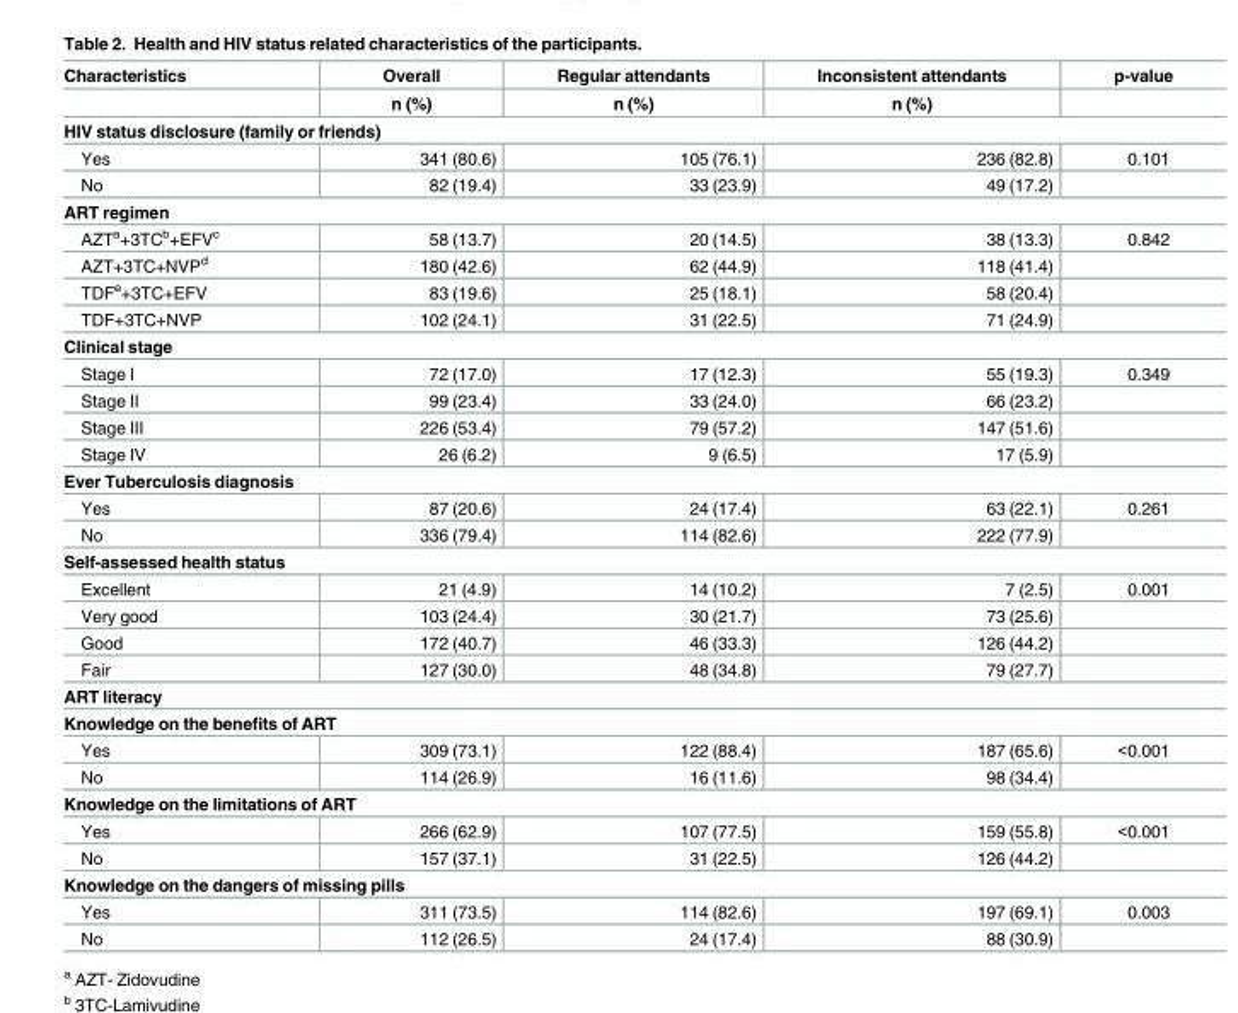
<table><thead><tr><td rowspan="2">Characteristics</td><td rowspan="2">Overall n (%)</td><td rowspan="2">Regular attendants n (%)</td><td rowspan="2">Inconsistent attendants n (%)</td><td rowspan="2">p-value</td></tr><tr></tr></thead><tbody><tr><td colspan="5">HIV status disclosure (family or friends)</td></tr><tr><td>Yes</td><td>341 (80.6)</td><td>105 (76.1)</td><td>236 (82.8)</td><td>0.101</td></tr><tr><td>No</td><td>82 (19.4)</td><td>33 (23.9)</td><td>49 (17.2)</td><td></td></tr><tr><td colspan="5">ART regimen</td></tr><tr><td>AZT<sup>a</sup>+3TC<sup>b</sup>+EFV<sup>c</sup></td><td>58 (13.7)</td><td>20 (14.5)</td><td>38 (13.3)</td><td>0.842</td></tr><tr><td>AZT+3TC+NVP<sup>d</sup></td><td>180 (42.6)</td><td>62 (44.9)</td><td>118 (41.4)</td><td></td></tr><tr><td>TDF<sup>e</sup>+3TC+EFV</td><td>83 (19.6)</td><td>25 (18.1)</td><td>58 (20.4)</td><td></td></tr><tr><td>TDF+3TC+NVP</td><td>102 (24.1)</td><td>31 (22.5)</td><td>71 (24.9)</td><td></td></tr><tr><td colspan="5">Clinical stage</td></tr><tr><td>Stage I</td><td>72 (17.0)</td><td>17 (12.3)</td><td>55 (19.3)</td><td>0.349</td></tr><tr><td>Stage II</td><td>99 (23.4)</td><td>33 (24.0)</td><td>66 (23.2)</td><td></td></tr><tr><td>Stage III</td><td>226 (53.4)</td><td>79 (57.2)</td><td>147 (51.6)</td><td></td></tr><tr><td>Stage IV</td><td>26 (6.2)</td><td>9 (6.5)</td><td>17 (5.9)</td><td></td></tr><tr><td colspan="5">Ever Tuberculosis diagnosis</td></tr><tr><td>Yes</td><td>87 (20.6)</td><td>24 (17.4)</td><td>63 (22.1)</td><td>0.261</td></tr><tr><td>No</td><td>336 (79.4)</td><td>114 (82.6)</td><td>222 (77.9)</td><td></td></tr><tr><td colspan="5">Self-assessed health status</td></tr><tr><td>Excellent</td><td>21 (4.9)</td><td>14 (10.2)</td><td>7 (2.5)</td><td>0.001</td></tr><tr><td>Very good</td><td>103 (24.4)</td><td>30 (21.7)</td><td>73 (25.6)</td><td></td></tr><tr><td>Good</td><td>172 (40.7)</td><td>46 (33.3)</td><td>126 (44.2)</td><td></td></tr><tr><td>Fair</td><td>127 (30.0)</td><td>48 (34.8)</td><td>79 (27.7)</td><td></td></tr><tr><td colspan="5">ART literacy</td></tr><tr><td colspan="5">Knowledge on the benefits of ART</td></tr><tr><td>Yes</td><td>309 (73.1)</td><td>122 (88.4)</td><td>187 (65.6)</td><td>&lt;0.001</td></tr><tr><td>No</td><td>114 (26.9)</td><td>16 (11.6)</td><td>98 (34.4)</td><td></td></tr><tr><td colspan="5">Knowledge on the limitations of ART</td></tr><tr><td>Yes</td><td>266 (62.9)</td><td>107 (77.5)</td><td>159 (55.8)</td><td>&lt;0.001</td></tr><tr><td>No</td><td>157 (37.1)</td><td>31 (22.5)</td><td>126 (44.2)</td><td></td></tr><tr><td colspan="5">Knowledge on the dangers of missing pills</td></tr><tr><td>Yes</td><td>311 (73.5)</td><td>114 (82.6)</td><td>197 (69.1)</td><td>0.003</td></tr><tr><td>No</td><td>112 (26.5)</td><td>24 (17.4)</td><td>88 (30.9)</td><td></td></tr></tbody></table>